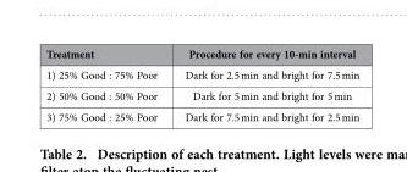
<table><thead><tr><td>Treatment</td><td>Procedure for every 10-min interval</td></tr></thead><tbody><tr><td>1) 25% Good : 75% Poor</td><td>Dark for 2.5 min and bright for 7.5 min</td></tr><tr><td>2) 50% Good : 50% Poor</td><td>Dark for 5 min and bright for 5 min</td></tr><tr><td>3) 75% Good : 25% Poor</td><td>Dark for 7.5 min and bright for 2.5 min</td></tr></tbody></table>